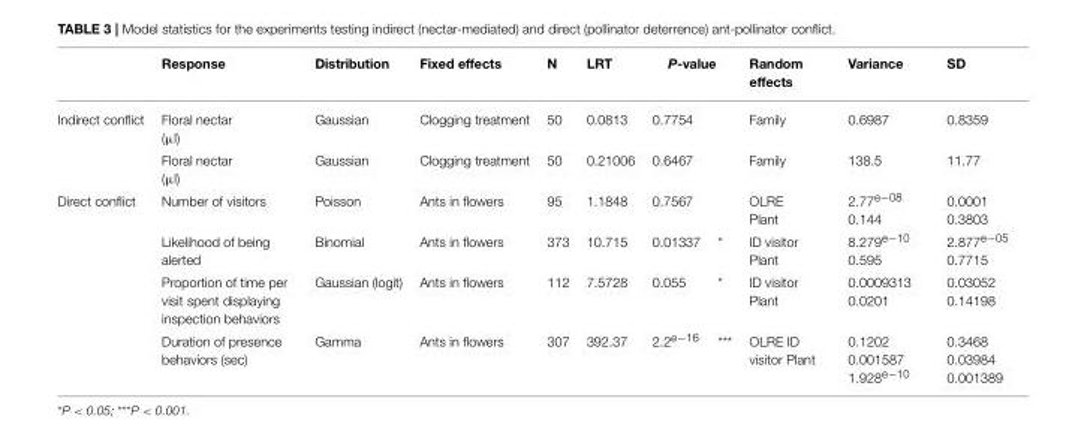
<table><thead><tr><td rowspan="2">Indirect conflict</td><td rowspan="2">Response Floral nectar (µl)</td><td rowspan="2">Distribution Gaussian</td><td rowspan="2">Fixed effects Clogging treatment</td><td rowspan="2">N 50</td><td rowspan="2">LRT 0.0813</td><td colspan="2">P-value</td><td rowspan="2">Random effects Family</td><td rowspan="2">Variance 0.6987</td><td rowspan="2">SD 0.8359</td></tr><tr><td>0.7754</td><td></td></tr></thead><tbody><tr><td></td><td>Floral nectar (µl)</td><td>Gaussian</td><td>Clogging treatment</td><td>50</td><td>0.21006</td><td>0.6467</td><td></td><td>Family</td><td>138.5</td><td>11.77</td></tr><tr><td rowspan="4">Direct conflict</td><td>Number of visitors</td><td>Poisson</td><td>Ants in flowers</td><td>95</td><td>1.1848</td><td>0.7567</td><td></td><td>OLRE Plant</td><td>2.77<sup>e−08</sup> 0.144</td><td>0.0001 0.3803</td></tr><tr><td>Likelihood of being alerted</td><td>Binomial</td><td>Ants in flowers</td><td>373</td><td>10.715</td><td>0.01337</td><td>*</td><td>ID visitor Plant</td><td>8.279<sup>e−10</sup> 0.595</td><td>2.877<sup>e−05</sup> 0.7715</td></tr><tr><td>Proportion of time per visit spent displaying inspection behaviors</td><td>Gaussian (logit)</td><td>Ants in flowers</td><td>112</td><td>7.5728</td><td>0.055</td><td>*</td><td>ID visitor Plant</td><td>0.0009313 0.0201</td><td>0.03052 0.14198</td></tr><tr><td>Duration of presence behaviors (sec)</td><td>Gamma</td><td>Ants in flowers</td><td>307</td><td>392.37</td><td>2.2<sup>e−16</sup></td><td>***</td><td>OLRE ID visitor Plant</td><td>0.1202 0.001587 1.928<sup>e−10</sup></td><td>0.3468 0.03984 0.001389</td></tr></tbody></table>